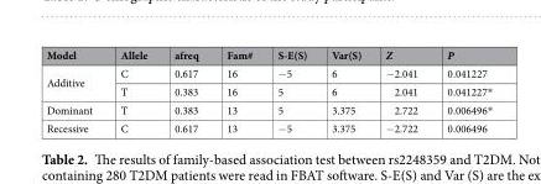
<table><thead><tr><td>Model</td><td>Allele</td><td>afreq</td><td>Fam#</td><td>S-E(S)</td><td>Var(S)</td><td>Z</td><td>P</td></tr></thead><tbody><tr><td rowspan="2">Additive</td><td>C</td><td>0.617</td><td>16</td><td>−5</td><td>6</td><td>−2.041</td><td>0.041227</td></tr><tr><td>T</td><td>0.383</td><td>16</td><td>5</td><td>6</td><td>2.041</td><td>0.041227*</td></tr><tr><td>Dominant</td><td>T</td><td>0.383</td><td>13</td><td>5</td><td>3.375</td><td>2.722</td><td>0.006496*</td></tr><tr><td>Recessive</td><td>C</td><td>0.617</td><td>13</td><td>−5</td><td>3.375</td><td>−2.722</td><td>0.006496</td></tr></tbody></table>